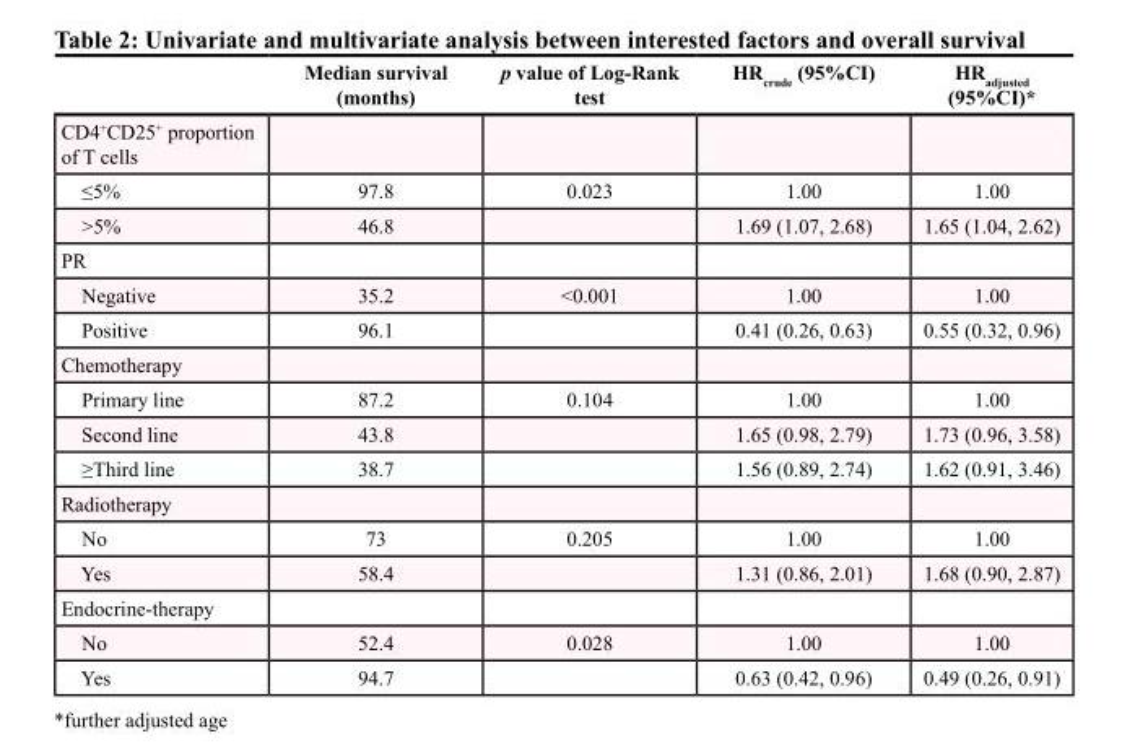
<table><thead><tr><td></td><td>Median survival (months)</td><td>p value of Log-Rank test</td><td>HR<sub>crude</sub> (95%CI)</td><td>HR<sub>adjusted</sub> (95%CI)*</td></tr></thead><tbody><tr><td colspan="5">CD4<sup>+</sup>CD25<sup>+</sup> proportion of T cells</td></tr><tr><td>≤5%</td><td>97.8</td><td>0.023</td><td>1.00</td><td>1.00</td></tr><tr><td>&gt;5%</td><td>46.8</td><td></td><td>1.69 (1.07, 2.68)</td><td>1.65 (1.04, 2.62)</td></tr><tr><td colspan="5">PR</td></tr><tr><td>Negative</td><td>35.2</td><td>&lt;0.001</td><td>1.00</td><td>1.00</td></tr><tr><td>Positive</td><td>96.1</td><td></td><td>0.41 (0.26, 0.63)</td><td>0.55 (0.32, 0.96)</td></tr><tr><td colspan="5">Chemotherapy</td></tr><tr><td>Primary line</td><td>87.2</td><td>0.104</td><td>1.00</td><td>1.00</td></tr><tr><td>Second line</td><td>43.8</td><td></td><td>1.65 (0.98, 2.79)</td><td>1.73 (0.96, 3.58)</td></tr><tr><td>≥Third line</td><td>38.7</td><td></td><td>1.56 (0.89, 2.74)</td><td>1.62 (0.91, 3.46)</td></tr><tr><td colspan="5">Radiotherapy</td></tr><tr><td>No</td><td>73</td><td>0.205</td><td>1.00</td><td>1.00</td></tr><tr><td>Yes</td><td>58.4</td><td></td><td>1.31 (0.86, 2.01)</td><td>1.68 (0.90, 2.87)</td></tr><tr><td colspan="5">Endocrine-therapy</td></tr><tr><td>No</td><td>52.4</td><td>0.028</td><td>1.00</td><td>1.00</td></tr><tr><td>Yes</td><td>94.7</td><td></td><td>0.63 (0.42, 0.96)</td><td>0.49 (0.26, 0.91)</td></tr></tbody></table>